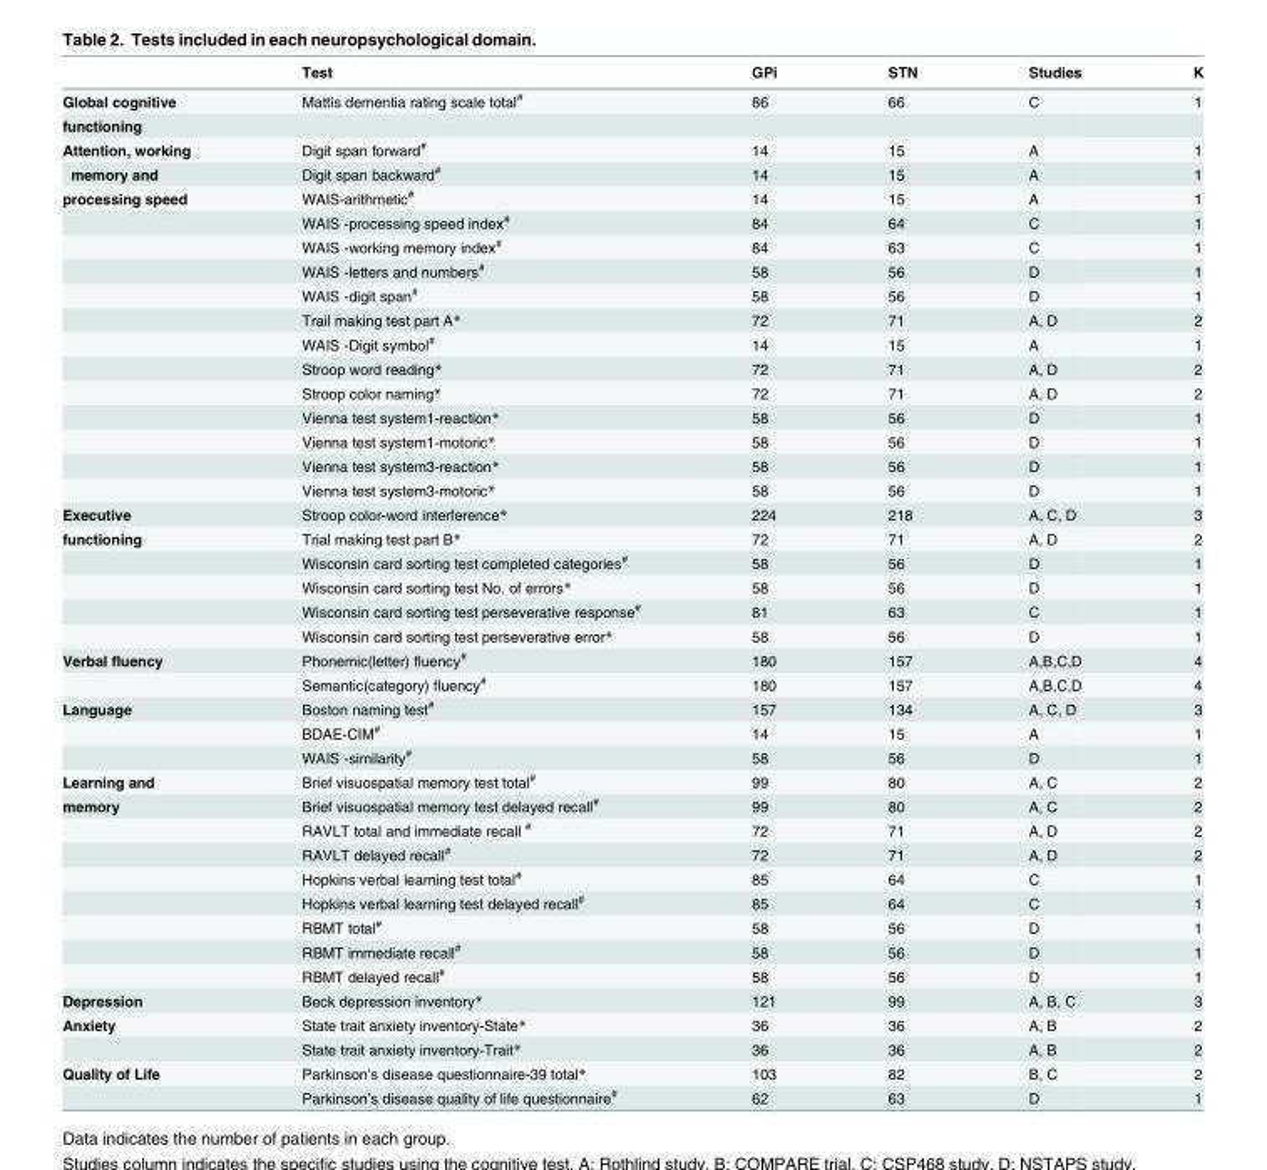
<table><thead><tr><td></td><td>Test</td><td>GPi</td><td>STN</td><td>Studies</td><td>K</td></tr></thead><tbody><tr><td>Global cognitive</td><td>Mattis dementia rating scale total<sup>#</sup></td><td>86</td><td>66</td><td>C</td><td>1</td></tr><tr><td colspan="6">functioning</td></tr><tr><td>Attention, working</td><td>Digit span forward<sup>#</sup></td><td>14</td><td>15</td><td>A</td><td>1</td></tr><tr><td>memory and</td><td>Digit span backward<sup>#</sup></td><td>14</td><td>15</td><td>A</td><td>1</td></tr><tr><td rowspan="13">processing speed</td><td>WAIS-arithmetic<sup>#</sup></td><td>14</td><td>15</td><td>A</td><td>1</td></tr><tr><td>WAIS -processing speed index<sup>#</sup></td><td>84</td><td>64</td><td>C</td><td>1</td></tr><tr><td>WAIS -working memory index<sup>#</sup></td><td>84</td><td>63</td><td>C</td><td>1</td></tr><tr><td>WAIS -letters and numbers<sup>#</sup></td><td>58</td><td>56</td><td>D</td><td>1</td></tr><tr><td>WAIS -digit span<sup>#</sup></td><td>58</td><td>56</td><td>D</td><td>1</td></tr><tr><td>Trail making test part A*</td><td>72</td><td>71</td><td>A, D</td><td>2</td></tr><tr><td>WAIS -Digit symbol<sup>#</sup></td><td>14</td><td>15</td><td>A</td><td>1</td></tr><tr><td>Stroop word reading*</td><td>72</td><td>71</td><td>A, D</td><td>2</td></tr><tr><td>Stroop color naming*</td><td>72</td><td>71</td><td>A, D</td><td>2</td></tr><tr><td>Vienna test system1-reaction*</td><td>58</td><td>56</td><td>D</td><td>1</td></tr><tr><td>Vienna test system1-motoric*</td><td>58</td><td>56</td><td>D</td><td>1</td></tr><tr><td>Vienna test system3-reaction*</td><td>58</td><td>56</td><td>D</td><td>1</td></tr><tr><td>Vienna test system3-motoric*</td><td>58</td><td>56</td><td>D</td><td>1</td></tr><tr><td>Executive</td><td>Stroop color-word interference*</td><td>224</td><td>218</td><td>A, C, D</td><td>3</td></tr><tr><td rowspan="5">functioning</td><td>Trial making test part B*</td><td>72</td><td>71</td><td>A, D</td><td>2</td></tr><tr><td>Wisconsin card sorting test completed categories<sup>#</sup></td><td>58</td><td>56</td><td>D</td><td>1</td></tr><tr><td>Wisconsin card sorting test No. of errors*</td><td>58</td><td>56</td><td>D</td><td>1</td></tr><tr><td>Wisconsin card sorting test perseverative response<sup>#</sup></td><td>81</td><td>63</td><td>C</td><td>1</td></tr><tr><td>Wisconsin card sorting test perseverative error*</td><td>58</td><td>56</td><td>D</td><td>1</td></tr><tr><td rowspan="2">Verbal fluency</td><td>Phonemic(letter) fluency<sup>#</sup></td><td>180</td><td>157</td><td>A,B,C,D</td><td>4</td></tr><tr><td>Semantic(category) fluency<sup>#</sup></td><td>180</td><td>157</td><td>A,B,C,D</td><td>4</td></tr><tr><td rowspan="3">Language</td><td>Boston naming test<sup>#</sup></td><td>157</td><td>134</td><td>A, C, D</td><td>3</td></tr><tr><td>BDAE-CIM<sup>#</sup></td><td>14</td><td>15</td><td>A</td><td>1</td></tr><tr><td>WAIS -similarity<sup>#</sup></td><td>58</td><td>56</td><td>D</td><td>1</td></tr><tr><td>Learning and</td><td>Brief visuospatial memory test total<sup>#</sup></td><td>99</td><td>80</td><td>A, C</td><td>2</td></tr><tr><td rowspan="8">memory</td><td>Brief visuospatial memory test delayed recall<sup>#</sup></td><td>99</td><td>80</td><td>A, C</td><td>2</td></tr><tr><td>RAVLT total and immediate recall <sup>#</sup></td><td>72</td><td>71</td><td>A, D</td><td>2</td></tr><tr><td>RAVLT delayed recall<sup>#</sup></td><td>72</td><td>71</td><td>A, D</td><td>2</td></tr><tr><td>Hopkins verbal learning test total<sup>#</sup></td><td>85</td><td>64</td><td>C</td><td>1</td></tr><tr><td>Hopkins verbal learning test delayed recall<sup>#</sup></td><td>85</td><td>64</td><td>C</td><td>1</td></tr><tr><td>RBMT total<sup>#</sup></td><td>58</td><td>56</td><td>D</td><td>1</td></tr><tr><td>RBMT immediate recall<sup>#</sup></td><td>58</td><td>56</td><td>D</td><td>1</td></tr><tr><td>RBMT delayed recall<sup>#</sup></td><td>58</td><td>56</td><td>D</td><td>1</td></tr><tr><td>Depression</td><td>Beck depression inventory*</td><td>121</td><td>99</td><td>A, B, C</td><td>3</td></tr><tr><td rowspan="2">Anxiety</td><td>State trait anxiety inventory-State*</td><td>36</td><td>36</td><td>A, B</td><td>2</td></tr><tr><td>State trait anxiety inventory-Trait*</td><td>36</td><td>36</td><td>A, B</td><td>2</td></tr><tr><td rowspan="2">Quality of Life</td><td>Parkinson’s disease questionnaire-39 total*</td><td>103</td><td>82</td><td>B, C</td><td>2</td></tr><tr><td>Parkinson’s disease quality of life questionnaire<sup>#</sup></td><td>62</td><td>63</td><td>D</td><td>1</td></tr></tbody></table>